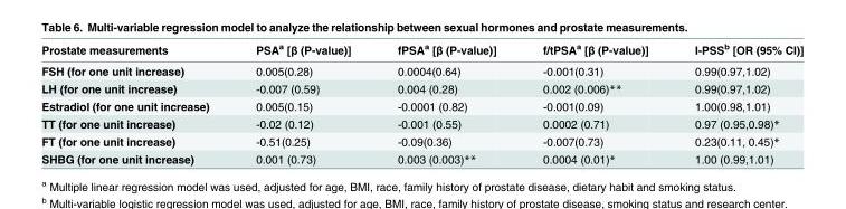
<table><thead><tr><td>Prostate measurements</td><td>PSA<sup>a</sup> [β (P-value)]</td><td>fPSA<sup>a</sup> [β (P-value)]</td><td>f/tPSA<sup>a</sup> [β (P-value)]</td><td>I-PSS<sup>b</sup> [OR (95% CI)]</td></tr></thead><tbody><tr><td>FSH (for one unit increase)</td><td>0.005(0.28)</td><td>0.0004(0.64)</td><td>-0.001(0.31)</td><td>0.99(0.97,1.02)</td></tr><tr><td>LH (for one unit increase)</td><td>-0.007 (0.59)</td><td>0.004 (0.28)</td><td>0.002 (0.006)**</td><td>0.99(0.97,1.02)</td></tr><tr><td>Estradiol (for one unit increase)</td><td>0.005(0.15)</td><td>-0.0001 (0.82)</td><td>-0.001(0.09)</td><td>1.00(0.98,1.01)</td></tr><tr><td>TT (for one unit increase)</td><td>-0.02 (0.12)</td><td>-0.001 (0.55)</td><td>0.0002 (0.71)</td><td>0.97 (0.95,0.98)*</td></tr><tr><td>FT (for one unit increase)</td><td>-0.51(0.25)</td><td>-0.09(0.36)</td><td>-0.007(0.73)</td><td>0.23(0.11, 0.45)*</td></tr><tr><td>SHBG (for one unit increase)</td><td>0.001 (0.73)</td><td>0.003 (0.003)**</td><td>0.0004 (0.01)*</td><td>1.00 (0.99,1.01)</td></tr></tbody></table>